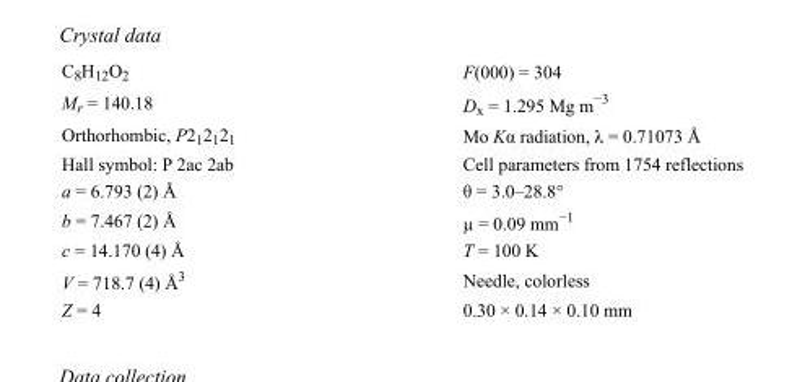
<table><tbody><tr><td>C<sub>8</sub>H<sub>12</sub>O<sub>2</sub></td><td>F(000) = 304</td></tr><tr><td>M<sub>r</sub> = 140.18</td><td>D<sub>x</sub> = 1.295 Mg m<sup>−3</sup></td></tr><tr><td>Orthorhombic, P2<sub>1</sub>2<sub>1</sub>2<sub>1</sub></td><td>Mo Kα radiation, λ = 0.71073 Å</td></tr><tr><td>Hall symbol: P 2ac 2ab</td><td>Cell parameters from 1754 reflections</td></tr><tr><td>a = 6.793 (2) Å</td><td>θ = 3.0–28.8°</td></tr><tr><td>b = 7.467 (2) Å</td><td>µ = 0.09 mm<sup>−1</sup></td></tr><tr><td>c = 14.170 (4) Å</td><td>T = 100 K</td></tr><tr><td>V = 718.7 (4) Å<sup>3</sup></td><td>Needle, colorless</td></tr><tr><td>Z = 4</td><td>0.30 × 0.14 × 0.10 mm</td></tr></tbody></table>